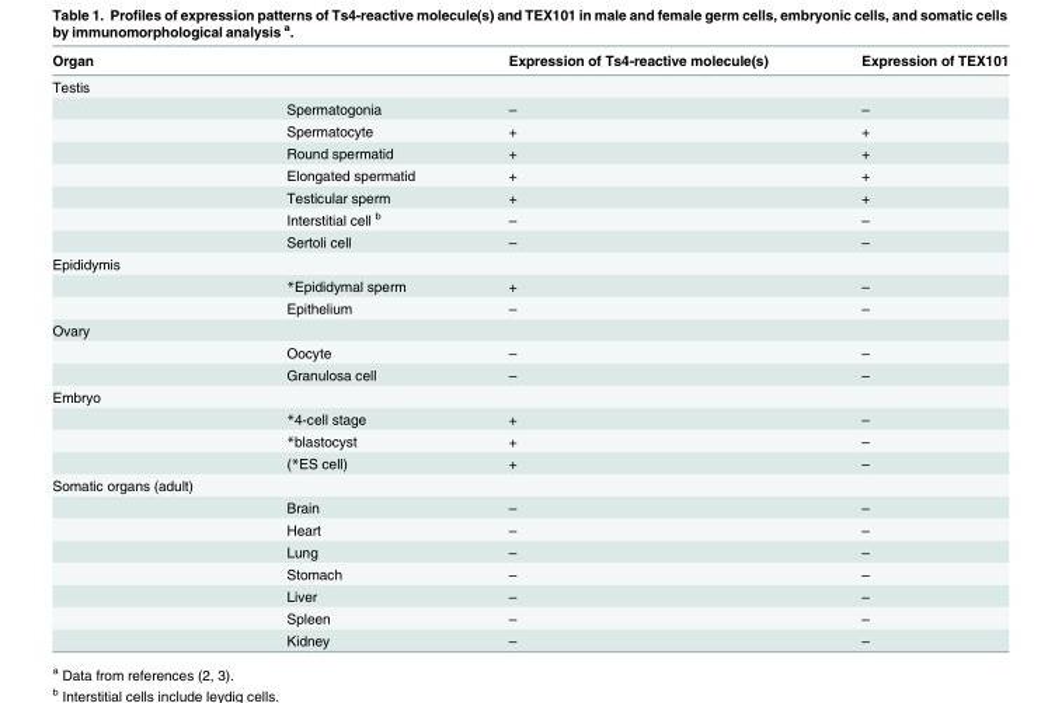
<table><thead><tr><td>Organ</td><td></td><td>Expression of Ts4-reactive molecule(s)</td><td>Expression of TEX101</td></tr></thead><tbody><tr><td colspan="4">Testis</td></tr><tr><td></td><td>Spermatogonia</td><td>–</td><td>–</td></tr><tr><td></td><td>Spermatocyte</td><td>+</td><td>+</td></tr><tr><td></td><td>Round spermatid</td><td>+</td><td>+</td></tr><tr><td></td><td>Elongated spermatid</td><td>+</td><td>+</td></tr><tr><td></td><td>Testicular sperm</td><td>+</td><td>+</td></tr><tr><td></td><td>Interstitial cell <sup>b</sup></td><td>–</td><td>–</td></tr><tr><td></td><td>Sertoli cell</td><td>–</td><td>–</td></tr><tr><td colspan="4">Epididymis</td></tr><tr><td></td><td>*Epididymal sperm</td><td>+</td><td>–</td></tr><tr><td></td><td>Epithelium</td><td>–</td><td>–</td></tr><tr><td colspan="4">Ovary</td></tr><tr><td></td><td>Oocyte</td><td>–</td><td>–</td></tr><tr><td></td><td>Granulosa cell</td><td>–</td><td>–</td></tr><tr><td colspan="4">Embryo</td></tr><tr><td></td><td>*4-cell stage</td><td>+</td><td>–</td></tr><tr><td></td><td>*blastocyst</td><td>+</td><td>–</td></tr><tr><td></td><td>(*ES cell)</td><td>+</td><td>–</td></tr><tr><td colspan="4">Somatic organs (adult)</td></tr><tr><td></td><td>Brain</td><td>–</td><td>–</td></tr><tr><td></td><td>Heart</td><td>–</td><td>–</td></tr><tr><td></td><td>Lung</td><td>–</td><td>–</td></tr><tr><td></td><td>Stomach</td><td>–</td><td>–</td></tr><tr><td></td><td>Liver</td><td>–</td><td>–</td></tr><tr><td></td><td>Spleen</td><td>–</td><td>–</td></tr><tr><td></td><td>Kidney</td><td>–</td><td>–</td></tr></tbody></table>